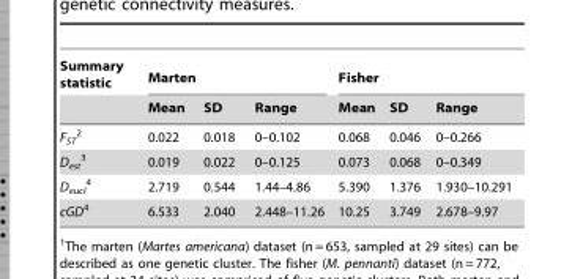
<table><thead><tr><td rowspan="2">Summary statistic</td><td colspan="3">Marten</td><td colspan="3">Fisher</td></tr><tr><td>Mean</td><td>SD</td><td>Range</td><td>Mean</td><td>SD</td><td>Range</td></tr></thead><tbody><tr><td>F<sub>ST</sub> 2</td><td>0.022</td><td>0.018</td><td>0–0.102</td><td>0.068</td><td>0.046</td><td>0–0.266</td></tr><tr><td>D<sub>est</sub> 3</td><td>0.019</td><td>0.022</td><td>0–0.125</td><td>0.073</td><td>0.068</td><td>0–0.349</td></tr><tr><td>D<sub>eucl</sub> 4</td><td>2.719</td><td>0.544</td><td>1.44–4.86</td><td>5.390</td><td>1.376</td><td>1.930–10.291</td></tr><tr><td>cGD4</td><td>6.533</td><td>2.040</td><td>2.448–11.26</td><td>10.25</td><td>3.749</td><td>2.678–9.97</td></tr></tbody></table>